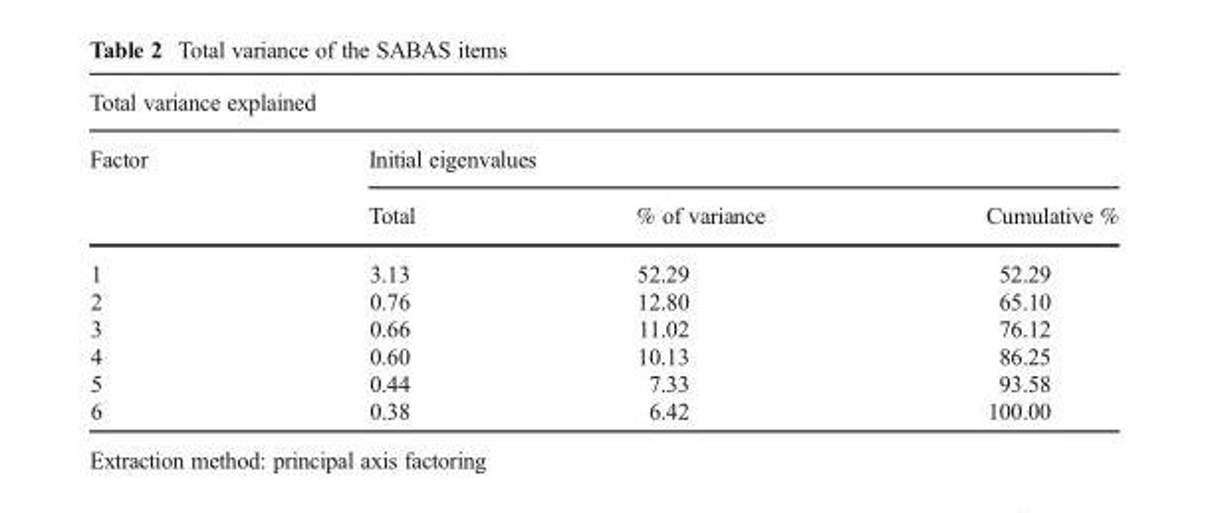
<table><thead><tr><td colspan="4">Total variance explained</td></tr><tr><td rowspan="2">Factor</td><td colspan="3">Initial eigenvalues</td></tr><tr><td>Total</td><td>% of variance</td><td>Cumulative %</td></tr></thead><tbody><tr><td>1</td><td>3.13</td><td>52.29</td><td>52.29</td></tr><tr><td>2</td><td>0.76</td><td>12.80</td><td>65.10</td></tr><tr><td>3</td><td>0.66</td><td>11.02</td><td>76.12</td></tr><tr><td>4</td><td>0.60</td><td>10.13</td><td>86.25</td></tr><tr><td>5</td><td>0.44</td><td>7.33</td><td>93.58</td></tr><tr><td>6</td><td>0.38</td><td>6.42</td><td>100.00</td></tr></tbody></table>